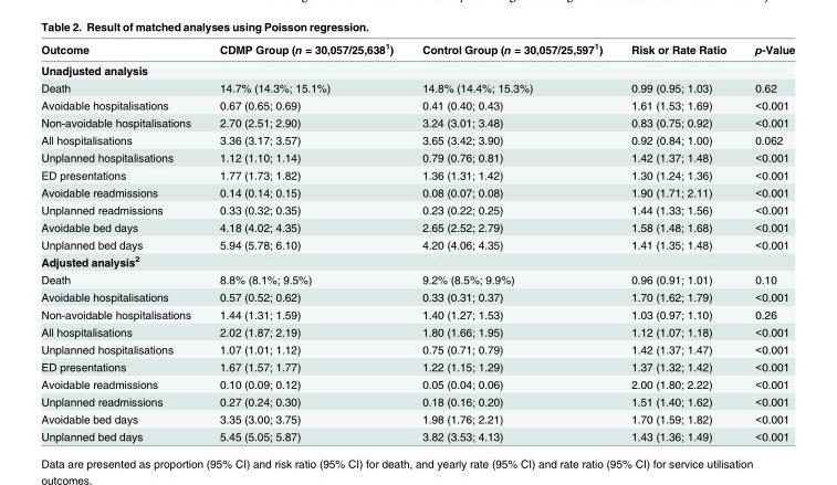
<table><thead><tr><td>Outcome</td><td>CDMP Group (n = 30,057/25,638<sup>1</sup>)</td><td>Control Group (n = 30,057/25,597<sup>1</sup>)</td><td>Risk or Rate Ratio</td><td>p-Value</td></tr></thead><tbody><tr><td colspan="5">Unadjusted analysis</td></tr><tr><td>Death</td><td>14.7% (14.3%; 15.1%)</td><td>14.8% (14.4%; 15.3%)</td><td>0.99 (0.95; 1.03)</td><td>0.62</td></tr><tr><td>Avoidable hospitalisations</td><td>0.67 (0.65; 0.69)</td><td>0.41 (0.40; 0.43)</td><td>1.61 (1.53; 1.69)</td><td>&lt;0.001</td></tr><tr><td>Non-avoidable hospitalisations</td><td>2.70 (2.51; 2.90)</td><td>3.24 (3.01; 3.48)</td><td>0.83 (0.75; 0.92)</td><td>&lt;0.001</td></tr><tr><td>All hospitalisations</td><td>3.36 (3.17; 3.57)</td><td>3.65 (3.42; 3.90)</td><td>0.92 (0.84; 1.00)</td><td>0.062</td></tr><tr><td>Unplanned hospitalisations</td><td>1.12 (1.10; 1.14)</td><td>0.79 (0.76; 0.81)</td><td>1.42 (1.37; 1.48)</td><td>&lt;0.001</td></tr><tr><td>ED presentations</td><td>1.77 (1.73; 1.82)</td><td>1.36 (1.31; 1.42)</td><td>1.30 (1.24; 1.36)</td><td>&lt;0.001</td></tr><tr><td>Avoidable readmissions</td><td>0.14 (0.14; 0.15)</td><td>0.08 (0.07; 0.08)</td><td>1.90 (1.71; 2.11)</td><td>&lt;0.001</td></tr><tr><td>Unplanned readmissions</td><td>0.33 (0.32; 0.35)</td><td>0.23 (0.22; 0.25)</td><td>1.44 (1.33; 1.56)</td><td>&lt;0.001</td></tr><tr><td>Avoidable bed days</td><td>4.18 (4.02; 4.35)</td><td>2.65 (2.52; 2.79)</td><td>1.58 (1.48; 1.68)</td><td>&lt;0.001</td></tr><tr><td>Unplanned bed days</td><td>5.94 (5.78; 6.10)</td><td>4.20 (4.06; 4.35)</td><td>1.41 (1.35; 1.48)</td><td>&lt;0.001</td></tr><tr><td colspan="5">Adjusted analysis<sup>2</sup></td></tr><tr><td>Death</td><td>8.8% (8.1%; 9.5%)</td><td>9.2% (8.5%; 9.9%)</td><td>0.96 (0.91; 1.01)</td><td>0.10</td></tr><tr><td>Avoidable hospitalisations</td><td>0.57 (0.52; 0.62)</td><td>0.33 (0.31; 0.37)</td><td>1.70 (1.62; 1.79)</td><td>&lt;0.001</td></tr><tr><td>Non-avoidable hospitalisations</td><td>1.44 (1.31; 1.59)</td><td>1.40 (1.27; 1.53)</td><td>1.03 (0.97; 1.10)</td><td>0.26</td></tr><tr><td>All hospitalisations</td><td>2.02 (1.87; 2.19)</td><td>1.80 (1.66; 1.95)</td><td>1.12 (1.07; 1.18)</td><td>&lt;0.001</td></tr><tr><td>Unplanned hospitalisations</td><td>1.07 (1.01; 1.12)</td><td>0.75 (0.71; 0.79)</td><td>1.42 (1.37; 1.47)</td><td>&lt;0.001</td></tr><tr><td>ED presentations</td><td>1.67 (1.57; 1.77)</td><td>1.22 (1.15; 1.29)</td><td>1.37 (1.32; 1.42)</td><td>&lt;0.001</td></tr><tr><td>Avoidable readmissions</td><td>0.10 (0.09; 0.12)</td><td>0.05 (0.04; 0.06)</td><td>2.00 (1.80; 2.22)</td><td>&lt;0.001</td></tr><tr><td>Unplanned readmissions</td><td>0.27 (0.24; 0.30)</td><td>0.18 (0.16; 0.20)</td><td>1.51 (1.40; 1.62)</td><td>&lt;0.001</td></tr><tr><td>Avoidable bed days</td><td>3.35 (3.00; 3.75)</td><td>1.98 (1.76; 2.21)</td><td>1.70 (1.59; 1.82)</td><td>&lt;0.001</td></tr><tr><td>Unplanned bed days</td><td>5.45 (5.05; 5.87)</td><td>3.82 (3.53; 4.13)</td><td>1.43 (1.36; 1.49)</td><td>&lt;0.001</td></tr></tbody></table>